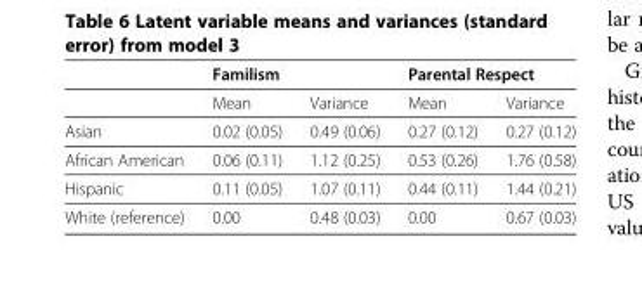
<table><thead><tr><td rowspan="2"></td><td colspan="2">Familism</td><td colspan="2">Parental Respect</td></tr><tr><td>Mean</td><td>Variance</td><td>Mean</td><td>Variance</td></tr></thead><tbody><tr><td>Asian</td><td>0.02 (0.05)</td><td>0.49 (0.06)</td><td>0.27 (0.12)</td><td>0.27 (0.12)</td></tr><tr><td>African American</td><td>0.06 (0.11)</td><td>1.12 (0.25)</td><td>0.53 (0.26)</td><td>1.76 (0.58)</td></tr><tr><td>Hispanic</td><td>0.11 (0.05)</td><td>1.07 (0.11)</td><td>0.44 (0.11)</td><td>1.44 (0.21)</td></tr><tr><td>White (reference)</td><td>0.00</td><td>0.48 (0.03)</td><td>0.00</td><td>0.67 (0.03)</td></tr></tbody></table>